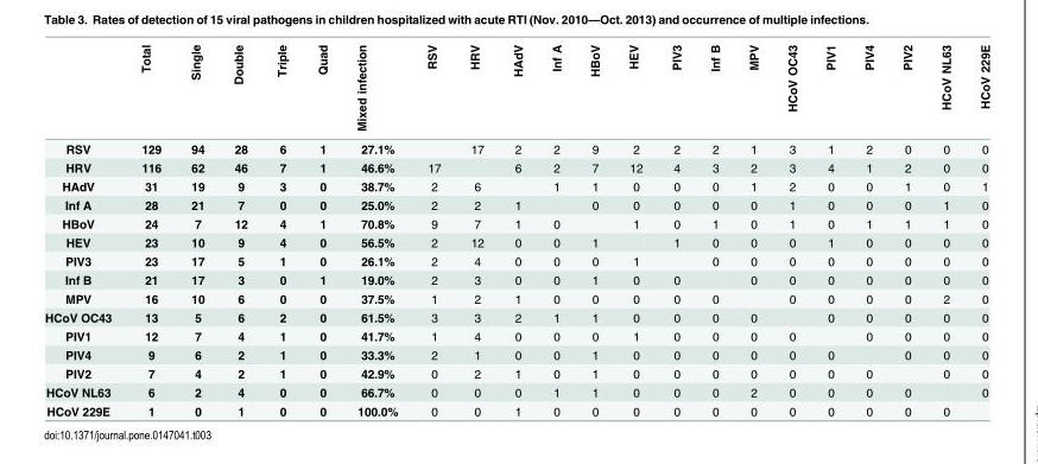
<table><thead><tr><td></td><td>Total</td><td>Single</td><td>Double</td><td>Triple</td><td>Quad</td><td>Mixed infection</td><td>RSV</td><td>HRV</td><td>HAdV</td><td>Inf A</td><td>HBoV</td><td>HEV</td><td>PIV3</td><td>Inf B</td><td>MPV</td><td>HCoV OC43</td><td>PIV1</td><td>PIV4</td><td>PIV2</td><td>HCoV NL63</td><td>HCoV 229E</td></tr></thead><tbody><tr><td>RSV</td><td>129</td><td>94</td><td>28</td><td>6</td><td>1</td><td>27.1%</td><td></td><td>17</td><td>2</td><td>2</td><td>9</td><td>2</td><td>2</td><td>2</td><td>1</td><td>3</td><td>1</td><td>2</td><td>0</td><td>0</td><td>0</td></tr><tr><td>HRV</td><td>116</td><td>62</td><td>46</td><td>7</td><td>1</td><td>46.6%</td><td>17</td><td></td><td>6</td><td>2</td><td>7</td><td>12</td><td>4</td><td>3</td><td>2</td><td>3</td><td>4</td><td>1</td><td>2</td><td>0</td><td>0</td></tr><tr><td>HAdV</td><td>31</td><td>19</td><td>9</td><td>3</td><td>0</td><td>38.7%</td><td>2</td><td>6</td><td></td><td>1</td><td>1</td><td>0</td><td>0</td><td>0</td><td>1</td><td>2</td><td>0</td><td>0</td><td>1</td><td>0</td><td>1</td></tr><tr><td>Inf A</td><td>28</td><td>21</td><td>7</td><td>0</td><td>0</td><td>25.0%</td><td>2</td><td>2</td><td>1</td><td></td><td>0</td><td>0</td><td>0</td><td>0</td><td>0</td><td>1</td><td>0</td><td>0</td><td>0</td><td>1</td><td>0</td></tr><tr><td>HBoV</td><td>24</td><td>7</td><td>12</td><td>4</td><td>1</td><td>70.8%</td><td>9</td><td>7</td><td>1</td><td>0</td><td></td><td>1</td><td>0</td><td>1</td><td>0</td><td>1</td><td>0</td><td>1</td><td>1</td><td>1</td><td>0</td></tr><tr><td>HEV</td><td>23</td><td>10</td><td>9</td><td>4</td><td>0</td><td>56.5%</td><td>2</td><td>12</td><td>0</td><td>0</td><td>1</td><td></td><td>1</td><td>0</td><td>0</td><td>0</td><td>1</td><td>0</td><td>0</td><td>0</td><td>0</td></tr><tr><td>PIV3</td><td>23</td><td>17</td><td>5</td><td>1</td><td>0</td><td>26.1%</td><td>2</td><td>4</td><td>0</td><td>0</td><td>0</td><td>1</td><td></td><td>0</td><td>0</td><td>0</td><td>0</td><td>0</td><td>0</td><td>0</td><td>0</td></tr><tr><td>Inf B</td><td>21</td><td>17</td><td>3</td><td>0</td><td>1</td><td>19.0%</td><td>2</td><td>3</td><td>0</td><td>0</td><td>1</td><td>0</td><td>0</td><td></td><td>0</td><td>0</td><td>0</td><td>0</td><td>0</td><td>0</td><td>0</td></tr><tr><td>MPV</td><td>16</td><td>10</td><td>6</td><td>0</td><td>0</td><td>37.5%</td><td>1</td><td>2</td><td>1</td><td>0</td><td>0</td><td>0</td><td>0</td><td>0</td><td></td><td>0</td><td>0</td><td>0</td><td>0</td><td>2</td><td>0</td></tr><tr><td>HCoV OC43</td><td>13</td><td>5</td><td>6</td><td>2</td><td>0</td><td>61.5%</td><td>3</td><td>3</td><td>2</td><td>1</td><td>1</td><td>0</td><td>0</td><td>0</td><td>0</td><td></td><td>0</td><td>0</td><td>0</td><td>0</td><td>0</td></tr><tr><td>PIV1</td><td>12</td><td>7</td><td>4</td><td>1</td><td>0</td><td>41.7%</td><td>1</td><td>4</td><td>0</td><td>0</td><td>0</td><td>1</td><td>0</td><td>0</td><td>0</td><td>0</td><td></td><td>0</td><td>0</td><td>0</td><td>0</td></tr><tr><td>PIV4</td><td>9</td><td>6</td><td>2</td><td>1</td><td>0</td><td>33.3%</td><td>2</td><td>1</td><td>0</td><td>0</td><td>1</td><td>0</td><td>0</td><td>0</td><td>0</td><td>0</td><td>0</td><td></td><td>0</td><td>0</td><td>0</td></tr><tr><td>PIV2</td><td>7</td><td>4</td><td>2</td><td>1</td><td>0</td><td>42.9%</td><td>0</td><td>2</td><td>1</td><td>0</td><td>1</td><td>0</td><td>0</td><td>0</td><td>0</td><td>0</td><td>0</td><td>0</td><td></td><td>0</td><td>0</td></tr><tr><td>HCoV NL63</td><td>6</td><td>2</td><td>4</td><td>0</td><td>0</td><td>66.7%</td><td>0</td><td>0</td><td>0</td><td>1</td><td>1</td><td>0</td><td>0</td><td>0</td><td>2</td><td>0</td><td>0</td><td>0</td><td>0</td><td></td><td>0</td></tr><tr><td>HCoV 229E</td><td>1</td><td>0</td><td>1</td><td>0</td><td>0</td><td>100.0%</td><td>0</td><td>0</td><td>1</td><td>0</td><td>0</td><td>0</td><td>0</td><td>0</td><td>0</td><td>0</td><td>0</td><td>0</td><td>0</td><td>0</td><td></td></tr></tbody></table>